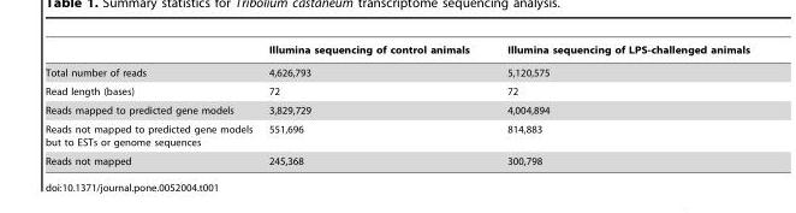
<table><thead><tr><td></td><td>Illumina sequencing of control animals</td><td>Illumina sequencing of LPS-challenged animals</td></tr></thead><tbody><tr><td>Total number of reads</td><td>4,626,793</td><td>5,120,575</td></tr><tr><td>Read length (bases)</td><td>72</td><td>72</td></tr><tr><td>Reads mapped to predicted gene models</td><td>3,829,729</td><td>4,004,894</td></tr><tr><td>Reads not mapped to predicted gene models but to ESTs or genome sequences</td><td>551,696</td><td>814,883</td></tr><tr><td>Reads not mapped</td><td>245,368</td><td>300,798</td></tr></tbody></table>